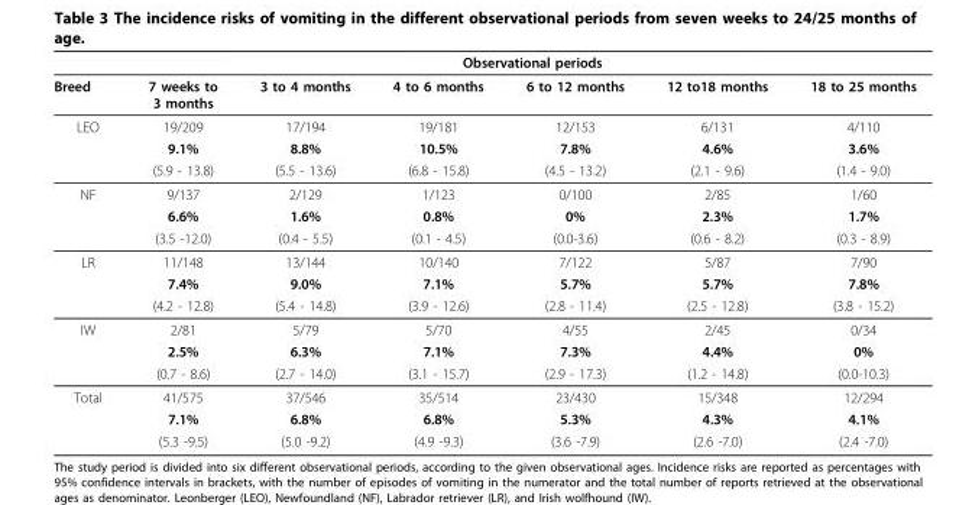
<table><thead><tr><td rowspan="2">Breed</td><td colspan="6">Observational periods</td></tr><tr><td>7 weeks to 3 months</td><td>3 to 4 months</td><td>4 to 6 months</td><td>6 to 12 months</td><td>12 to18 months</td><td>18 to 25 months</td></tr></thead><tbody><tr><td rowspan="3">LEO</td><td>19/209</td><td>17/194</td><td>19/181</td><td>12/153</td><td>6/131</td><td>4/110</td></tr><tr><td>9.1%</td><td>8.8%</td><td>10.5%</td><td>7.8%</td><td>4.6%</td><td>3.6%</td></tr><tr><td>(5.9 - 13.8)</td><td>(5.5 - 13.6)</td><td>(6.8 - 15.8)</td><td>(4.5 - 13.2)</td><td>(2.1 - 9.6)</td><td>(1.4 - 9.0)</td></tr><tr><td rowspan="3">NF</td><td>9/137</td><td>2/129</td><td>1/123</td><td>0/100</td><td>2/85</td><td>1/60</td></tr><tr><td>6.6%</td><td>1.6%</td><td>0.8%</td><td>0%</td><td>2.3%</td><td>1.7%</td></tr><tr><td>(3.5 -12.0)</td><td>(0.4 - 5.5)</td><td>(0.1 - 4.5)</td><td>(0.0-3.6)</td><td>(0.6 - 8.2)</td><td>(0.3 - 8.9)</td></tr><tr><td rowspan="3">LR</td><td>11/148</td><td>13/144</td><td>10/140</td><td>7/122</td><td>5/87</td><td>7/90</td></tr><tr><td>7.4%</td><td>9.0%</td><td>7.1%</td><td>5.7%</td><td>5.7%</td><td>7.8%</td></tr><tr><td>(4.2 - 12.8)</td><td>(5.4 - 14.8)</td><td>(3.9 - 12.6)</td><td>(2.8 - 11.4)</td><td>(2.5 - 12.8)</td><td>(3.8 - 15.2)</td></tr><tr><td rowspan="3">IW</td><td>2/81</td><td>5/79</td><td>5/70</td><td>4/55</td><td>2/45</td><td>0/34</td></tr><tr><td>2.5%</td><td>6.3%</td><td>7.1%</td><td>7.3%</td><td>4.4%</td><td>0%</td></tr><tr><td>(0.7 - 8.6)</td><td>(2.7 - 14.0)</td><td>(3.1 - 15.7)</td><td>(2.9 - 17.3)</td><td>(1.2 - 14.8)</td><td>(0.0-10.3)</td></tr><tr><td rowspan="3">Total</td><td>41/575</td><td>37/546</td><td>35/514</td><td>23/430</td><td>15/348</td><td>12/294</td></tr><tr><td>7.1%</td><td>6.8%</td><td>6.8%</td><td>5.3%</td><td>4.3%</td><td>4.1%</td></tr><tr><td>(5.3 -9.5)</td><td>(5.0 -9.2)</td><td>(4.9 -9.3)</td><td>(3.6 -7.9)</td><td>(2.6 -7.0)</td><td>(2.4 -7.0)</td></tr></tbody></table>